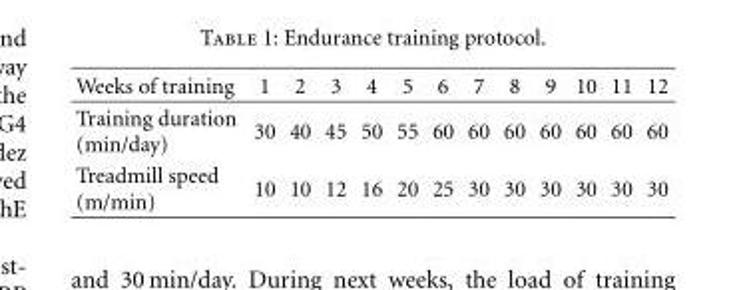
<table><thead><tr><td>Weeks of training</td><td>1</td><td>2</td><td>3</td><td>4</td><td>5</td><td>6</td><td>7</td><td>8</td><td>9</td><td>10</td><td>11</td><td>12</td></tr></thead><tbody><tr><td>Training duration (min/day)</td><td>30</td><td>40</td><td>45</td><td>50</td><td>55</td><td>60</td><td>60</td><td>60</td><td>60</td><td>60</td><td>60</td><td>60</td></tr><tr><td>Treadmill speed (m/min)</td><td>10</td><td>10</td><td>12</td><td>16</td><td>20</td><td>25</td><td>30</td><td>30</td><td>30</td><td>30</td><td>30</td><td>30</td></tr></tbody></table>